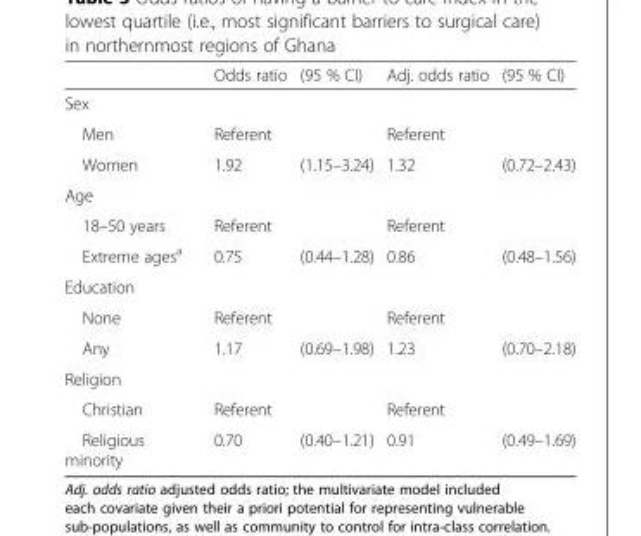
<table><thead><tr><td></td><td>Odds ratio</td><td>(95 % CI)</td><td>Adj. odds ratio</td><td>(95 % CI)</td></tr></thead><tbody><tr><td colspan="5">Sex</td></tr><tr><td>Men</td><td>Referent</td><td></td><td>Referent</td><td></td></tr><tr><td>Women</td><td>1.92</td><td>(1.15–3.24)</td><td>1.32</td><td>(0.72–2.43)</td></tr><tr><td colspan="5">Age</td></tr><tr><td>18–50 years</td><td>Referent</td><td></td><td>Referent</td><td></td></tr><tr><td>Extreme ages<sup>a</sup></td><td>0.75</td><td>(0.44–1.28)</td><td>0.86</td><td>(0.48–1.56)</td></tr><tr><td colspan="5">Education</td></tr><tr><td>None</td><td>Referent</td><td></td><td>Referent</td><td></td></tr><tr><td>Any</td><td>1.17</td><td>(0.69–1.98)</td><td>1.23</td><td>(0.70–2.18)</td></tr><tr><td colspan="5">Religion</td></tr><tr><td>Christian</td><td>Referent</td><td></td><td>Referent</td><td></td></tr><tr><td>Religious minority</td><td>0.70</td><td>(0.40–1.21)</td><td>0.91</td><td>(0.49–1.69)</td></tr></tbody></table>